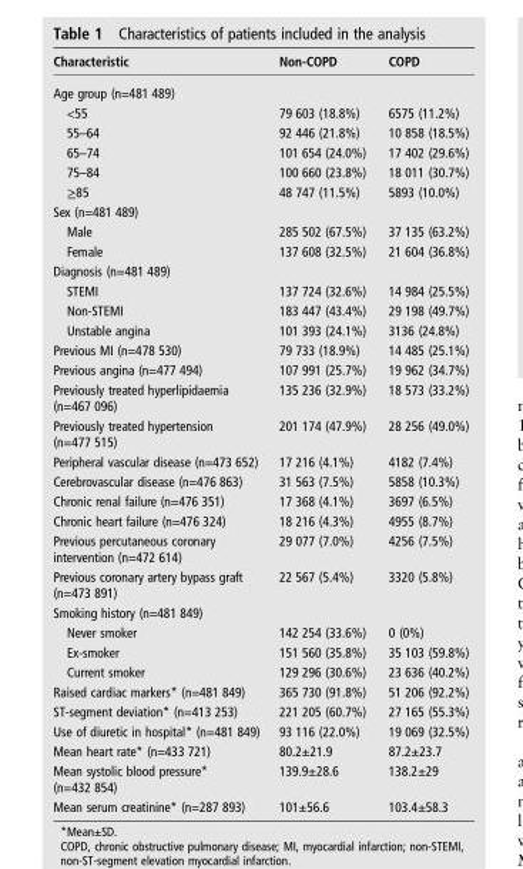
<table><thead><tr><td>Characteristic</td><td>Non-COPD</td><td>COPD</td></tr></thead><tbody><tr><td colspan="3">Age group (n=481 489)</td></tr><tr><td>&lt;55</td><td>79 603 (18.8%)</td><td>6575 (11.2%)</td></tr><tr><td>55–64</td><td>92 446 (21.8%)</td><td>10 858 (18.5%)</td></tr><tr><td>65–74</td><td>101 654 (24.0%)</td><td>17 402 (29.6%)</td></tr><tr><td>75–84</td><td>100 660 (23.8%)</td><td>18 011 (30.7%)</td></tr><tr><td>≥85</td><td>48 747 (11.5%)</td><td>5893 (10.0%)</td></tr><tr><td colspan="3">Sex (n=481 489)</td></tr><tr><td>Male</td><td>285 502 (67.5%)</td><td>37 135 (63.2%)</td></tr><tr><td>Female</td><td>137 608 (32.5%)</td><td>21 604 (36.8%)</td></tr><tr><td colspan="3">Diagnosis (n=481 489)</td></tr><tr><td>STEMI</td><td>137 724 (32.6%)</td><td>14 984 (25.5%)</td></tr><tr><td>Non-STEMI</td><td>183 447 (43.4%)</td><td>29 198 (49.7%)</td></tr><tr><td>Unstable angina</td><td>101 393 (24.1%)</td><td>3136 (24.8%)</td></tr><tr><td>Previous MI (n=478 530)</td><td>79 733 (18.9%)</td><td>14 485 (25.1%)</td></tr><tr><td>Previous angina (n=477 494)</td><td>107 991 (25.7%)</td><td>19 962 (34.7%)</td></tr><tr><td>Previously treated hyperlipidaemia (n=467 096)</td><td>135 236 (32.9%)</td><td>18 573 (33.2%)</td></tr><tr><td>Previously treated hypertension (n=477 515)</td><td>201 174 (47.9%)</td><td>28 256 (49.0%)</td></tr><tr><td>Peripheral vascular disease (n=473 652)</td><td>17 216 (4.1%)</td><td>4182 (7.4%)</td></tr><tr><td>Cerebrovascular disease (n=476 863)</td><td>31 563 (7.5%)</td><td>5858 (10.3%)</td></tr><tr><td>Chronic renal failure (n=476 351)</td><td>17 368 (4.1%)</td><td>3697 (6.5%)</td></tr><tr><td>Chronic heart failure (n=476 324)</td><td>18 216 (4.3%)</td><td>4955 (8.7%)</td></tr><tr><td>Previous percutaneous coronary intervention (n=472 614)</td><td>29 077 (7.0%)</td><td>4256 (7.5%)</td></tr><tr><td>Previous coronary artery bypass graft (n=473 891)</td><td>22 567 (5.4%)</td><td>3320 (5.8%)</td></tr><tr><td colspan="3">Smoking history (n=481 849)</td></tr><tr><td>Never smoker</td><td>142 254 (33.6%)</td><td>0 (0%)</td></tr><tr><td>Ex-smoker</td><td>151 560 (35.8%)</td><td>35 103 (59.8%)</td></tr><tr><td>Current smoker</td><td>129 296 (30.6%)</td><td>23 636 (40.2%)</td></tr><tr><td>Raised cardiac markers* (n=481 849)</td><td>365 730 (91.8%)</td><td>51 206 (92.2%)</td></tr><tr><td>ST-segment deviation* (n=413 253)</td><td>221 205 (60.7%)</td><td>27 165 (55.3%)</td></tr><tr><td>Use of diuretic in hospital* (n=481 849)</td><td>93 116 (22.0%)</td><td>19 069 (32.5%)</td></tr><tr><td>Mean heart rate* (n=433 721)</td><td>80.2±21.9</td><td>87.2±23.7</td></tr><tr><td>Mean systolic blood pressure* (n=432 854)</td><td>139.9±28.6</td><td>138.2±29</td></tr><tr><td>Mean serum creatinine* (n=287 893)</td><td>101±56.6</td><td>103.4±58.3</td></tr></tbody></table>